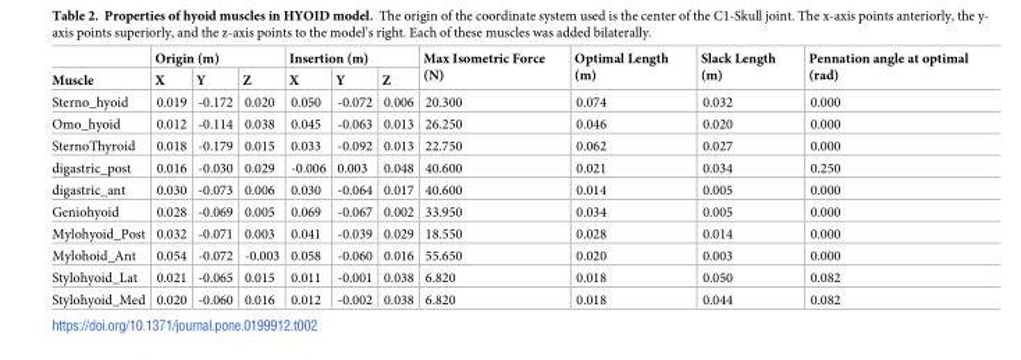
<table><thead><tr><td rowspan="2">Muscle</td><td colspan="3">Origin (m)</td><td colspan="3">Insertion (m)</td><td rowspan="2">Max Isometric Force (N)</td><td rowspan="2">Optimal Length (m)</td><td rowspan="2">Slack Length (m)</td><td rowspan="2">Pennation angle at optimal (rad)</td></tr><tr><td>X</td><td>Y</td><td>Z</td><td>X</td><td>Y</td><td>Z</td></tr></thead><tbody><tr><td>Sterno_hyoid</td><td>0.019</td><td>-0.172</td><td>0.020</td><td>0.050</td><td>-0.072</td><td>0.006</td><td>20.300</td><td>0.074</td><td>0.032</td><td>0.000</td></tr><tr><td>Omo_hyoid</td><td>0.012</td><td>-0.114</td><td>0.038</td><td>0.045</td><td>-0.063</td><td>0.013</td><td>26.250</td><td>0.046</td><td>0.020</td><td>0.000</td></tr><tr><td>SternoThyroid</td><td>0.018</td><td>-0.179</td><td>0.015</td><td>0.033</td><td>-0.092</td><td>0.013</td><td>22.750</td><td>0.062</td><td>0.027</td><td>0.000</td></tr><tr><td>digastric_post</td><td>0.016</td><td>-0.030</td><td>0.029</td><td>-0.006</td><td>0.003</td><td>0.048</td><td>40.600</td><td>0.021</td><td>0.034</td><td>0.250</td></tr><tr><td>digastric_ant</td><td>0.030</td><td>-0.073</td><td>0.006</td><td>0.030</td><td>-0.064</td><td>0.017</td><td>40.600</td><td>0.014</td><td>0.005</td><td>0.000</td></tr><tr><td>Geniohyoid</td><td>0.028</td><td>-0.069</td><td>0.005</td><td>0.069</td><td>-0.067</td><td>0.002</td><td>33.950</td><td>0.034</td><td>0.005</td><td>0.000</td></tr><tr><td>Mylohyoid_Post</td><td>0.032</td><td>-0.071</td><td>0.003</td><td>0.041</td><td>-0.039</td><td>0.029</td><td>18.550</td><td>0.028</td><td>0.014</td><td>0.000</td></tr><tr><td>Mylohoid_Ant</td><td>0.054</td><td>-0.072</td><td>-0.003</td><td>0.058</td><td>-0.060</td><td>0.016</td><td>55.650</td><td>0.020</td><td>0.003</td><td>0.000</td></tr><tr><td>Stylohyoid_Lat</td><td>0.021</td><td>-0.065</td><td>0.015</td><td>0.011</td><td>-0.001</td><td>0.038</td><td>6.820</td><td>0.018</td><td>0.050</td><td>0.082</td></tr><tr><td>Stylohyoid_Med</td><td>0.020</td><td>-0.060</td><td>0.016</td><td>0.012</td><td>-0.002</td><td>0.038</td><td>6.820</td><td>0.018</td><td>0.044</td><td>0.082</td></tr></tbody></table>